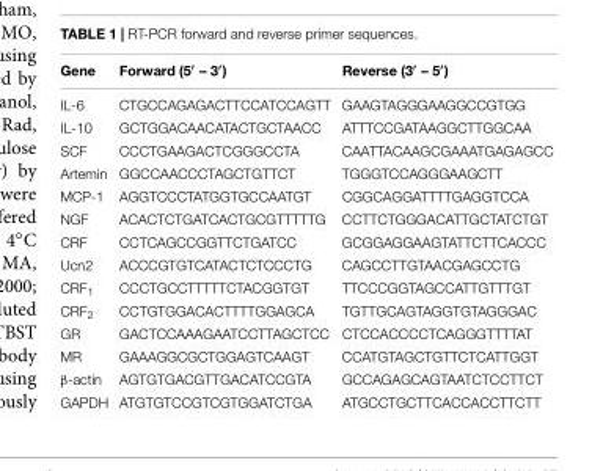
<table><thead><tr><td>Gene</td><td>Forward (5′ – 3′)</td><td>Reverse (3′ – 5′)</td></tr></thead><tbody><tr><td>IL-6</td><td>CTGCCAGAGACTTCCATCCAGTT</td><td>GAAGTAGGGAAGGCCGTGG</td></tr><tr><td>IL-10</td><td>GCTGGACAACATACTGCTAACC</td><td>ATTTCCGATAAGGCTTGGCAA</td></tr><tr><td>SCF</td><td>CCCTGAAGACTCGGGCCTA</td><td>CAATTACAAGCGAAATGAGAGCC</td></tr><tr><td>Artemin</td><td>GGCCAACCCTAGCTGTTCT</td><td>TGGGTCCAGGGAAGCTT</td></tr><tr><td>MCP-1</td><td>AGGTCCCTATGGTGCCAATGT</td><td>CGGCAGGATTTTGAGGTCCA</td></tr><tr><td>NGF</td><td>ACACTCTGATCACTGCGTTTTTG</td><td>CCTTCTGGGACATTGCTATCTGT</td></tr><tr><td>CRF</td><td>CCTCAGCCGGTTCTGATCC</td><td>GCGGAGGAAGTATTCTTCACCC</td></tr><tr><td>Ucn2</td><td>ACCCGTGTCATACTCTCCCTG</td><td>CAGCCTTGTAACGAGCCTG</td></tr><tr><td>CRF<sub>1</sub></td><td>CCCTGCCTTTTTCTACGGTGT</td><td>TTCCCGGTAGCCATTGTTTGT</td></tr><tr><td>CRF<sub>2</sub></td><td>CCTGTGGACACTTTTGGAGCA</td><td>TGTTGCAGTAGGTGTAGGGAC</td></tr><tr><td>GR</td><td>GACTCCAAAGAATCCTTAGCTCC</td><td>CTCCACCCCTCAGGGTTTTAT</td></tr><tr><td>MR</td><td>GAAAGGCGCTGGAGTCAAGT</td><td>CCATGTAGCTGTTCTCATTGGT</td></tr><tr><td>β-actin</td><td>AGTGTGACGTTGACATCCGTA</td><td>GCCAGAGCAGTAATCTCCTTCT</td></tr><tr><td>GAPDH</td><td>ATGTGTCCGTCGTGGATCTGA</td><td>ATGCCTGCTTCACCACCTTCTT</td></tr></tbody></table>